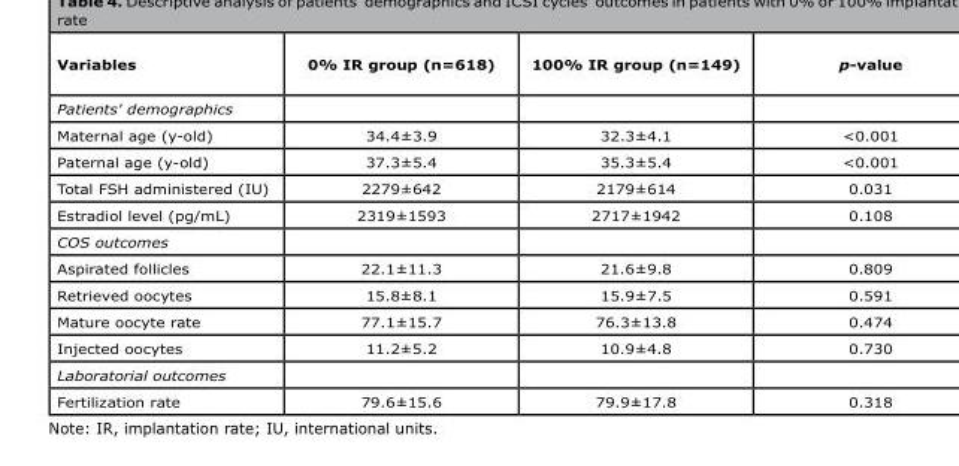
<table><thead><tr><td>Variables</td><td>0% IR group (n=618)</td><td>100% IR group (n=149)</td><td>p-value</td></tr></thead><tbody><tr><td colspan="4">Patients&#x27; demographics</td></tr><tr><td>Maternal age (y-old)</td><td>34.4±3.9</td><td>32.3±4.1</td><td>&lt;0.001</td></tr><tr><td>Paternal age (y-old)</td><td>37.3±5.4</td><td>35.3±5.4</td><td>&lt;0.001</td></tr><tr><td>Total FSH administered (IU)</td><td>2279±642</td><td>2179±614</td><td>0.031</td></tr><tr><td>Estradiol level (pg/mL)</td><td>2319±1593</td><td>2717±1942</td><td>0.108</td></tr><tr><td colspan="4">COS outcomes</td></tr><tr><td>Aspirated follicles</td><td>22.1±11.3</td><td>21.6±9.8</td><td>0.809</td></tr><tr><td>Retrieved oocytes</td><td>15.8±8.1</td><td>15.9±7.5</td><td>0.591</td></tr><tr><td>Mature oocyte rate</td><td>77.1±15.7</td><td>76.3±13.8</td><td>0.474</td></tr><tr><td>Injected oocytes</td><td>11.2±5.2</td><td>10.9±4.8</td><td>0.730</td></tr><tr><td colspan="4">Laboratorial outcomes</td></tr><tr><td>Fertilization rate</td><td>79.6±15.6</td><td>79.9±17.8</td><td>0.318</td></tr></tbody></table>